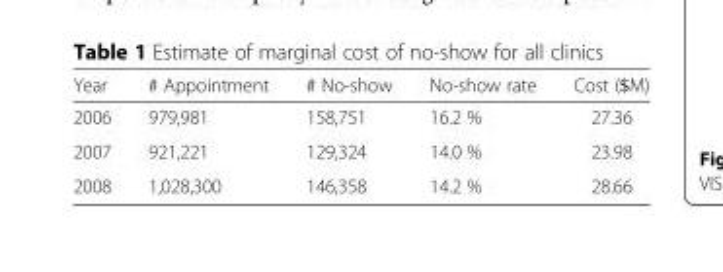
<table><thead><tr><td>Year</td><td># Appointment</td><td># No-show</td><td>No-show rate</td><td>Cost ($M)</td></tr></thead><tbody><tr><td>2006</td><td>979,981</td><td>158,751</td><td>16.2 %</td><td>27.36</td></tr><tr><td>2007</td><td>921,221</td><td>129,324</td><td>14.0 %</td><td>23.98</td></tr><tr><td>2008</td><td>1,028,300</td><td>146,358</td><td>14.2 %</td><td>28.66</td></tr></tbody></table>